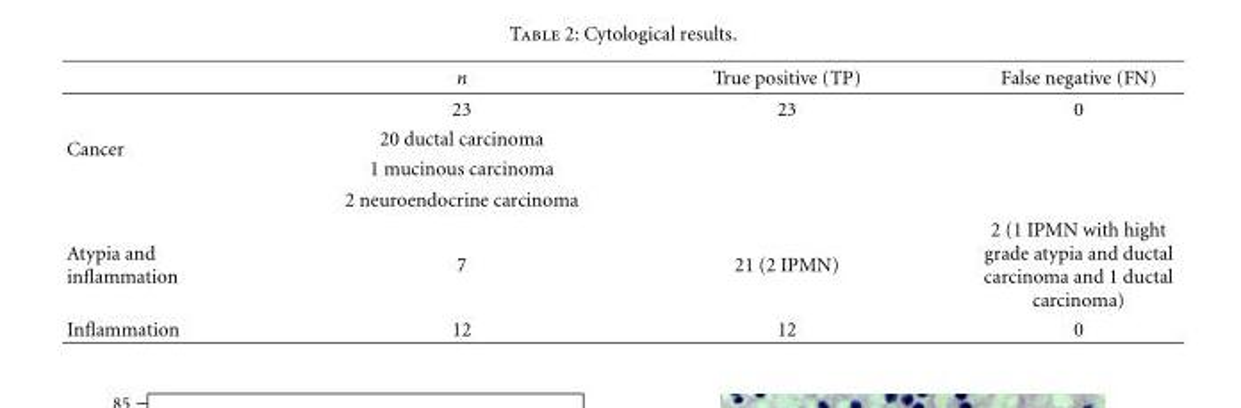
<table><thead><tr><td></td><td>n</td><td>True positive (TP)</td><td>False negative (FN)</td></tr></thead><tbody><tr><td rowspan="4">Cancer</td><td>23</td><td>23</td><td>0</td></tr><tr><td>20 ductal carcinoma</td><td></td><td></td></tr><tr><td>1 mucinous carcinoma</td><td></td><td></td></tr><tr><td>2 neuroendocrine carcinoma</td><td></td><td></td></tr><tr><td>Atypia and inflammation</td><td>7</td><td>21 (2 IPMN)</td><td>2 (1 IPMN with hight grade atypia and ductal carcinoma and 1 ductal carcinoma)</td></tr><tr><td>Inflammation</td><td>12</td><td>12</td><td>0</td></tr></tbody></table>